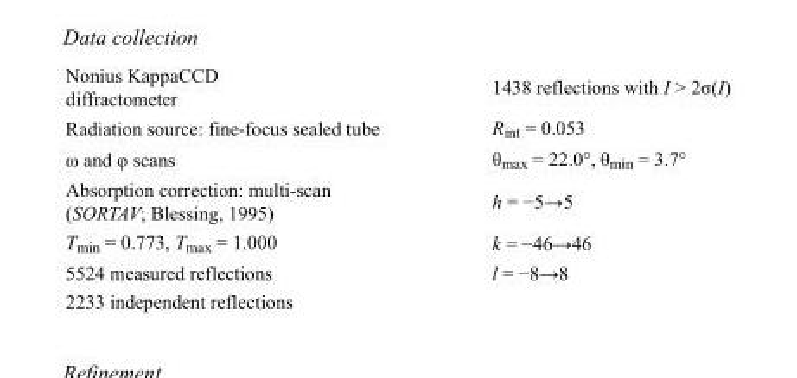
<table><tbody><tr><td>Nonius KappaCCD diffractometer</td><td>1438 reflections with I &gt; 2σ(I)</td></tr><tr><td>Radiation source: fine-focus sealed tube</td><td>R<sub>int</sub> = 0.053</td></tr><tr><td>ω and φ scans</td><td>θ<sub>max</sub> = 22.0°, θ<sub>min</sub> = 3.7°</td></tr><tr><td>Absorption correction: multi-scan (SORTAV; Blessing, 1995)</td><td>h = −5→5</td></tr><tr><td>T<sub>min</sub> = 0.773, T<sub>max</sub> = 1.000</td><td>k = −46→46</td></tr><tr><td>5524 measured reflections</td><td>l = −8→8</td></tr><tr><td>2233 independent reflections</td><td></td></tr></tbody></table>